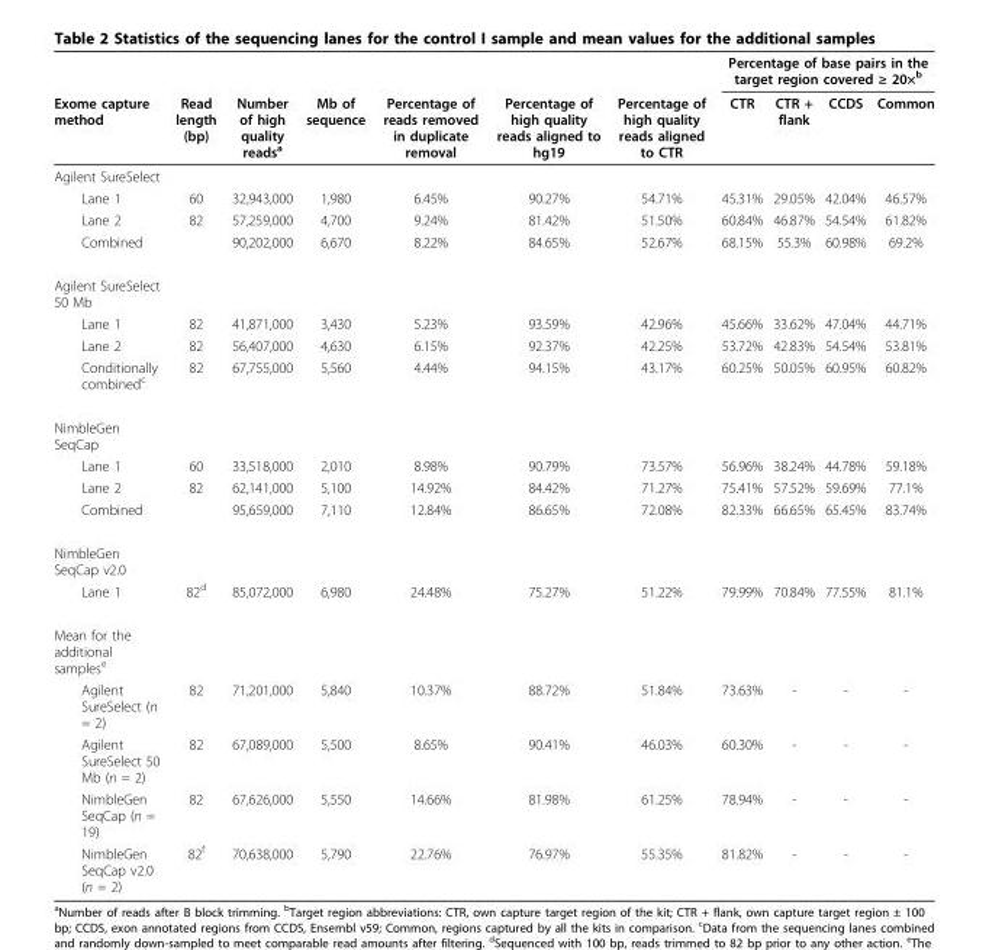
<table><thead><tr><td rowspan="2">Exome capture method</td><td rowspan="2">Read length (bp)</td><td rowspan="2">Number of high quality reads<sup>a</sup></td><td rowspan="2">Mb of sequence</td><td rowspan="2">Percentage of reads removed in duplicate removal</td><td rowspan="2">Percentage of high quality reads aligned to hg19</td><td rowspan="2">Percentage of high quality reads aligned to CTR</td><td colspan="4">Percentage of base pairs in the target region covered ≥ 20×<sup>b</sup></td></tr><tr><td>CTR</td><td>CTR + flank</td><td>CCDS</td><td>Common</td></tr></thead><tbody><tr><td colspan="11">Agilent SureSelect</td></tr><tr><td>Lane 1</td><td>60</td><td>32,943,000</td><td>1,980</td><td>6.45%</td><td>90.27%</td><td>54.71%</td><td>45.31%</td><td>29.05%</td><td>42.04%</td><td>46.57%</td></tr><tr><td>Lane 2</td><td>82</td><td>57,259,000</td><td>4,700</td><td>9.24%</td><td>81.42%</td><td>51.50%</td><td>60.84%</td><td>46.87%</td><td>54.54%</td><td>61.82%</td></tr><tr><td>Combined</td><td></td><td>90,202,000</td><td>6,670</td><td>8.22%</td><td>84.65%</td><td>52.67%</td><td>68.15%</td><td>55.3%</td><td>60.98%</td><td>69.2%</td></tr><tr><td colspan="11">Agilent SureSelect 50 Mb</td></tr><tr><td>Lane 1</td><td>82</td><td>41,871,000</td><td>3,430</td><td>5.23%</td><td>93.59%</td><td>42.96%</td><td>45.66%</td><td>33.62%</td><td>47.04%</td><td>44.71%</td></tr><tr><td>Lane 2</td><td>82</td><td>56,407,000</td><td>4,630</td><td>6.15%</td><td>92.37%</td><td>42.25%</td><td>53.72%</td><td>42.83%</td><td>54.54%</td><td>53.81%</td></tr><tr><td>Conditionally combined<sup>c</sup></td><td>82</td><td>67,755,000</td><td>5,560</td><td>4.44%</td><td>94.15%</td><td>43.17%</td><td>60.25%</td><td>50.05%</td><td>60.95%</td><td>60.82%</td></tr><tr><td colspan="11">NimbleGen SeqCap</td></tr><tr><td>Lane 1</td><td>60</td><td>33,518,000</td><td>2,010</td><td>8.98%</td><td>90.79%</td><td>73.57%</td><td>56.96%</td><td>38.24%</td><td>44.78%</td><td>59.18%</td></tr><tr><td>Lane 2</td><td>82</td><td>62,141,000</td><td>5,100</td><td>14.92%</td><td>84.42%</td><td>71.27%</td><td>75.41%</td><td>57.52%</td><td>59.69%</td><td>77.1%</td></tr><tr><td>Combined</td><td></td><td>95,659,000</td><td>7,110</td><td>12.84%</td><td>86.65%</td><td>72.08%</td><td>82.33%</td><td>66.65%</td><td>65.45%</td><td>83.74%</td></tr><tr><td colspan="11">NimbleGen SeqCap v2.0</td></tr><tr><td>Lane 1</td><td>82<sup>d</sup></td><td>85,072,000</td><td>6,980</td><td>24.48%</td><td>75.27%</td><td>51.22%</td><td>79.99%</td><td>70.84%</td><td>77.55%</td><td>81.1%</td></tr><tr><td colspan="11">Mean for the additional samples<sup>e</sup></td></tr><tr><td>Agilent SureSelect (n = 2)</td><td>82</td><td>71,201,000</td><td>5,840</td><td>10.37%</td><td>88.72%</td><td>51.84%</td><td>73.63%</td><td>-</td><td>-</td><td>-</td></tr><tr><td>Agilent SureSelect 50 Mb (n = 2)</td><td>82</td><td>67,089,000</td><td>5,500</td><td>8.65%</td><td>90.41%</td><td>46.03%</td><td>60.30%</td><td>-</td><td>-</td><td>-</td></tr><tr><td>NimbleGen SeqCap (n = 19)</td><td>82</td><td>67,626,000</td><td>5,550</td><td>14.66%</td><td>81.98%</td><td>61.25%</td><td>78.94%</td><td>-</td><td>-</td><td>-</td></tr><tr><td>NimbleGen SeqCap v2.0 (n = 2)</td><td>82<sup>f</sup></td><td>70,638,000</td><td>5,790</td><td>22.76%</td><td>76.97%</td><td>55.35%</td><td>81.82%</td><td>-</td><td>-</td><td>-</td></tr></tbody></table>